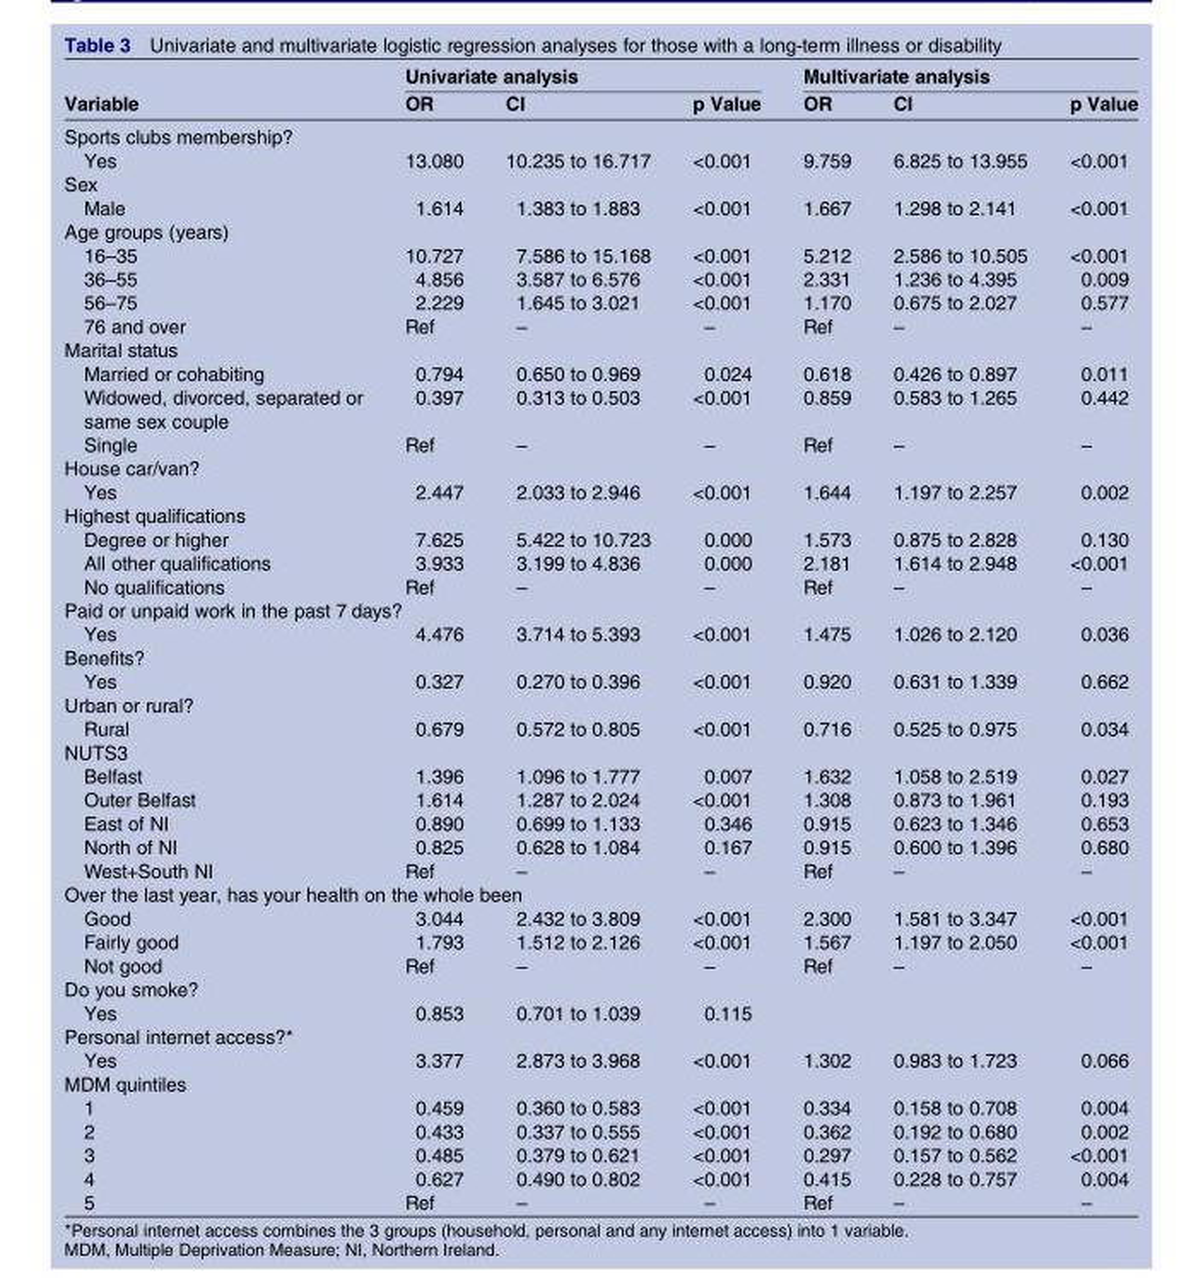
<table><thead><tr><td rowspan="2">Variable</td><td colspan="3">Univariate analysis</td><td colspan="3">Multivariate analysis</td></tr><tr><td>OR</td><td>CI</td><td>p Value</td><td>OR</td><td>CI</td><td>p Value</td></tr></thead><tbody><tr><td colspan="7">Sports clubs membership?</td></tr><tr><td>Yes</td><td>13.080</td><td>10.235 to 16.717</td><td>&lt;0.001</td><td>9.759</td><td>6.825 to 13.955</td><td>&lt;0.001</td></tr><tr><td colspan="7">Sex</td></tr><tr><td>Male</td><td>1.614</td><td>1.383 to 1.883</td><td>&lt;0.001</td><td>1.667</td><td>1.298 to 2.141</td><td>&lt;0.001</td></tr><tr><td colspan="7">Age groups (years)</td></tr><tr><td>16–35</td><td>10.727</td><td>7.586 to 15.168</td><td>&lt;0.001</td><td>5.212</td><td>2.586 to 10.505</td><td>&lt;0.001</td></tr><tr><td>36–55</td><td>4.856</td><td>3.587 to 6.576</td><td>&lt;0.001</td><td>2.331</td><td>1.236 to 4.395</td><td>0.009</td></tr><tr><td>56–75</td><td>2.229</td><td>1.645 to 3.021</td><td>&lt;0.001</td><td>1.170</td><td>0.675 to 2.027</td><td>0.577</td></tr><tr><td>76 and over</td><td>Ref</td><td>–</td><td>–</td><td>Ref</td><td>–</td><td>–</td></tr><tr><td colspan="7">Marital status</td></tr><tr><td>Married or cohabiting</td><td>0.794</td><td>0.650 to 0.969</td><td>0.024</td><td>0.618</td><td>0.426 to 0.897</td><td>0.011</td></tr><tr><td>Widowed, divorced, separated or same sex couple</td><td>0.397</td><td>0.313 to 0.503</td><td>&lt;0.001</td><td>0.859</td><td>0.583 to 1.265</td><td>0.442</td></tr><tr><td>Single</td><td>Ref</td><td>–</td><td>–</td><td>Ref</td><td>–</td><td>–</td></tr><tr><td colspan="7">House car/van?</td></tr><tr><td>Yes</td><td>2.447</td><td>2.033 to 2.946</td><td>&lt;0.001</td><td>1.644</td><td>1.197 to 2.257</td><td>0.002</td></tr><tr><td colspan="7">Highest qualifications</td></tr><tr><td>Degree or higher</td><td>7.625</td><td>5.422 to 10.723</td><td>0.000</td><td>1.573</td><td>0.875 to 2.828</td><td>0.130</td></tr><tr><td>All other qualifications</td><td>3.933</td><td>3.199 to 4.836</td><td>0.000</td><td>2.181</td><td>1.614 to 2.948</td><td>&lt;0.001</td></tr><tr><td>No qualifications</td><td>Ref</td><td>–</td><td>–</td><td>Ref</td><td>–</td><td>–</td></tr><tr><td colspan="7">Paid or unpaid work in the past 7 days?</td></tr><tr><td>Yes</td><td>4.476</td><td>3.714 to 5.393</td><td>&lt;0.001</td><td>1.475</td><td>1.026 to 2.120</td><td>0.036</td></tr><tr><td colspan="7">Benefits?</td></tr><tr><td>Yes</td><td>0.327</td><td>0.270 to 0.396</td><td>&lt;0.001</td><td>0.920</td><td>0.631 to 1.339</td><td>0.662</td></tr><tr><td colspan="7">Urban or rural?</td></tr><tr><td>Rural</td><td>0.679</td><td>0.572 to 0.805</td><td>&lt;0.001</td><td>0.716</td><td>0.525 to 0.975</td><td>0.034</td></tr><tr><td colspan="7">NUTS3</td></tr><tr><td>Belfast</td><td>1.396</td><td>1.096 to 1.777</td><td>0.007</td><td>1.632</td><td>1.058 to 2.519</td><td>0.027</td></tr><tr><td>Outer Belfast</td><td>1.614</td><td>1.287 to 2.024</td><td>&lt;0.001</td><td>1.308</td><td>0.873 to 1.961</td><td>0.193</td></tr><tr><td>East of NI</td><td>0.890</td><td>0.699 to 1.133</td><td>0.346</td><td>0.915</td><td>0.623 to 1.346</td><td>0.653</td></tr><tr><td>North of NI</td><td>0.825</td><td>0.628 to 1.084</td><td>0.167</td><td>0.915</td><td>0.600 to 1.396</td><td>0.680</td></tr><tr><td>West+South NI</td><td>Ref</td><td>–</td><td>–</td><td>Ref</td><td>–</td><td>–</td></tr><tr><td colspan="7">Over the last year, has your health on the whole been</td></tr><tr><td>Good</td><td>3.044</td><td>2.432 to 3.809</td><td>&lt;0.001</td><td>2.300</td><td>1.581 to 3.347</td><td>&lt;0.001</td></tr><tr><td>Fairly good</td><td>1.793</td><td>1.512 to 2.126</td><td>&lt;0.001</td><td>1.567</td><td>1.197 to 2.050</td><td>&lt;0.001</td></tr><tr><td>Not good</td><td>Ref</td><td>–</td><td>–</td><td>Ref</td><td>–</td><td>–</td></tr><tr><td colspan="7">Do you smoke?</td></tr><tr><td>Yes</td><td>0.853</td><td>0.701 to 1.039</td><td>0.115</td><td></td><td></td><td></td></tr><tr><td colspan="7">Personal internet access?*</td></tr><tr><td>Yes</td><td>3.377</td><td>2.873 to 3.968</td><td>&lt;0.001</td><td>1.302</td><td>0.983 to 1.723</td><td>0.066</td></tr><tr><td colspan="7">MDM quintiles</td></tr><tr><td>1</td><td>0.459</td><td>0.360 to 0.583</td><td>&lt;0.001</td><td>0.334</td><td>0.158 to 0.708</td><td>0.004</td></tr><tr><td>2</td><td>0.433</td><td>0.337 to 0.555</td><td>&lt;0.001</td><td>0.362</td><td>0.192 to 0.680</td><td>0.002</td></tr><tr><td>3</td><td>0.485</td><td>0.379 to 0.621</td><td>&lt;0.001</td><td>0.297</td><td>0.157 to 0.562</td><td>&lt;0.001</td></tr><tr><td>4</td><td>0.627</td><td>0.490 to 0.802</td><td>&lt;0.001</td><td>0.415</td><td>0.228 to 0.757</td><td>0.004</td></tr><tr><td>5</td><td>Ref</td><td>–</td><td>–</td><td>Ref</td><td>–</td><td>–</td></tr></tbody></table>